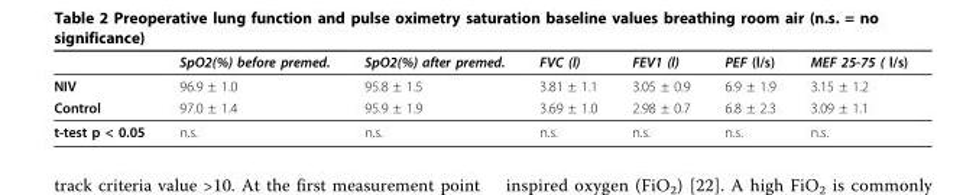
<table><thead><tr><td></td><td>SpO2(%) before premed.</td><td>SpO2(%) after premed.</td><td>FVC (l)</td><td>FEV1 (l)</td><td>PEF (l/s)</td><td>MEF 25-75 ( l/s)</td></tr></thead><tbody><tr><td>NIV</td><td>96.9 ± 1.0</td><td>95.8 ± 1.5</td><td>3.81 ± 1.1</td><td>3.05 ± 0.9</td><td>6.9 ± 1.9</td><td>3.15 ± 1.2</td></tr><tr><td>Control</td><td>97.0 ± 1.4</td><td>95.9 ± 1.9</td><td>3.69 ± 1.0</td><td>2.98 ± 0.7</td><td>6.8 ± 2.3</td><td>3.09 ± 1.1</td></tr><tr><td>t-test p &lt; 0.05</td><td>n.s.</td><td>n.s.</td><td>n.s.</td><td>n.s.</td><td>n.s.</td><td>n.s.</td></tr></tbody></table>